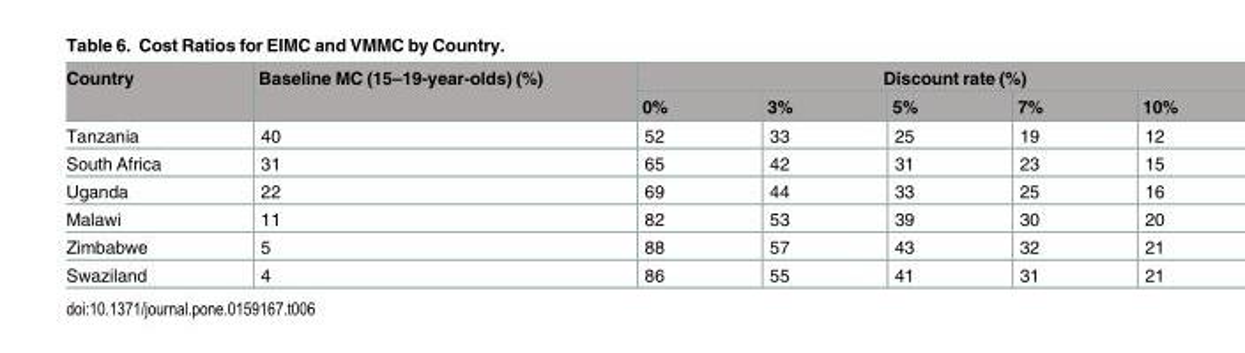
<table><thead><tr><td rowspan="2">Country</td><td rowspan="2">Baseline MC (15–19-year-olds) (%)</td><td colspan="5">Discount rate (%)</td></tr><tr><td>0%</td><td>3%</td><td>5%</td><td>7%</td><td>10%</td></tr></thead><tbody><tr><td>Tanzania</td><td>40</td><td>52</td><td>33</td><td>25</td><td>19</td><td>12</td></tr><tr><td>South Africa</td><td>31</td><td>65</td><td>42</td><td>31</td><td>23</td><td>15</td></tr><tr><td>Uganda</td><td>22</td><td>69</td><td>44</td><td>33</td><td>25</td><td>16</td></tr><tr><td>Malawi</td><td>11</td><td>82</td><td>53</td><td>39</td><td>30</td><td>20</td></tr><tr><td>Zimbabwe</td><td>5</td><td>88</td><td>57</td><td>43</td><td>32</td><td>21</td></tr><tr><td>Swaziland</td><td>4</td><td>86</td><td>55</td><td>41</td><td>31</td><td>21</td></tr></tbody></table>